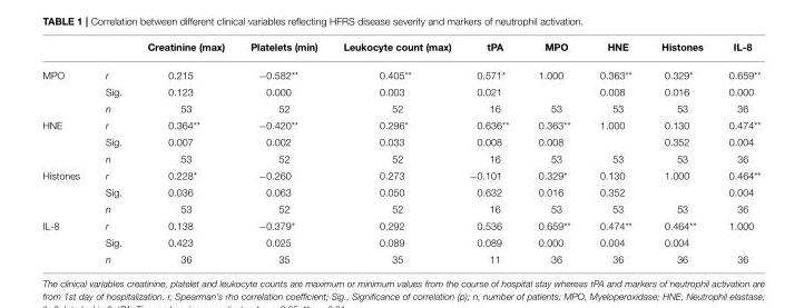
<table><thead><tr><td></td><td></td><td>Creatinine (max)</td><td>Platelets (min)</td><td>Leukocyte count (max)</td><td>tPA</td><td>MPO</td><td>HNE</td><td>Histones</td><td>IL-8</td></tr></thead><tbody><tr><td rowspan="3">MPO</td><td>r</td><td>0.215</td><td>−0.582**</td><td>0.405**</td><td>0.571*</td><td>1.000</td><td>0.363**</td><td>0.329*</td><td>0.659**</td></tr><tr><td>Sig.</td><td>0.123</td><td>0.000</td><td>0.003</td><td>0.021</td><td></td><td>0.008</td><td>0.016</td><td>0.000</td></tr><tr><td>n</td><td>53</td><td>52</td><td>52</td><td>16</td><td>53</td><td>53</td><td>53</td><td>36</td></tr><tr><td rowspan="3">HNE</td><td>r</td><td>0.364**</td><td>−0.420**</td><td>0.296*</td><td>0.636**</td><td>0.363**</td><td>1.000</td><td>0.130</td><td>0.474**</td></tr><tr><td>Sig.</td><td>0.007</td><td>0.002</td><td>0.033</td><td>0.008</td><td>0.008</td><td></td><td>0.352</td><td>0.004</td></tr><tr><td>n</td><td>53</td><td>52</td><td>52</td><td>16</td><td>53</td><td>53</td><td>53</td><td>36</td></tr><tr><td rowspan="3">Histones</td><td>r</td><td>0.228*</td><td>−0.260</td><td>0.273</td><td>−0.101</td><td>0.329*</td><td>0.130</td><td>1.000</td><td>0.464**</td></tr><tr><td>Sig.</td><td>0.036</td><td>0.063</td><td>0.050</td><td>0.632</td><td>0.016</td><td>0.352</td><td></td><td>0.004</td></tr><tr><td>n</td><td>53</td><td>52</td><td>52</td><td>16</td><td>53</td><td>53</td><td>53</td><td>36</td></tr><tr><td rowspan="3">IL-8</td><td>r</td><td>0.138</td><td>−0.379*</td><td>0.292</td><td>0.536</td><td>0.659**</td><td>0.474**</td><td>0.464**</td><td>1.000</td></tr><tr><td>Sig.</td><td>0.423</td><td>0.025</td><td>0.089</td><td>0.089</td><td>0.000</td><td>0.004</td><td>0.004</td><td></td></tr><tr><td>n</td><td>36</td><td>35</td><td>35</td><td>11</td><td>36</td><td>36</td><td>36</td><td>36</td></tr></tbody></table>